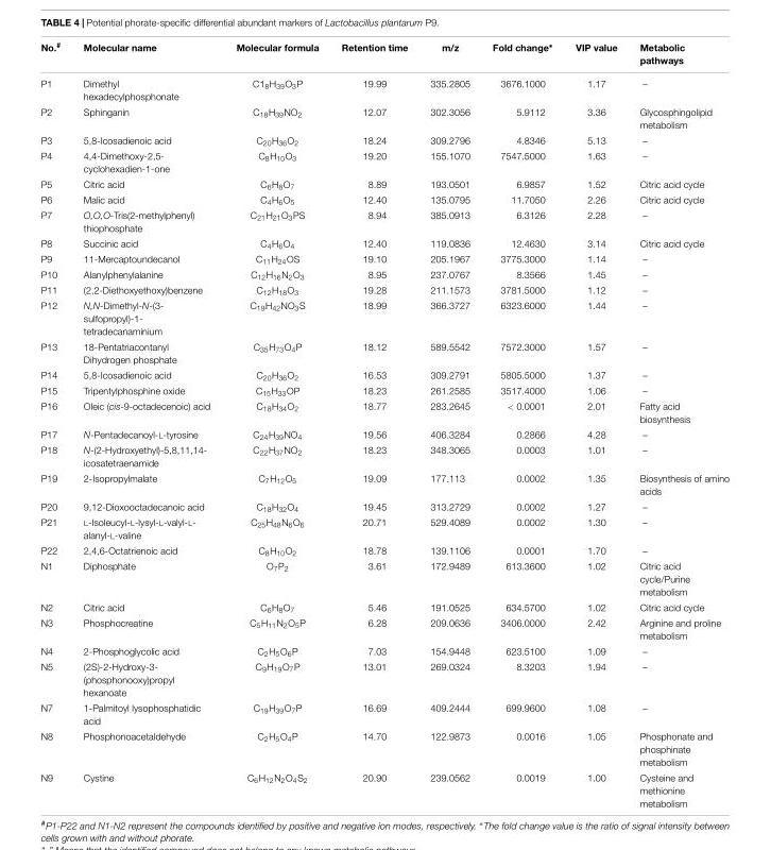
<table><thead><tr><td>No.<sup>#</sup></td><td>Molecular name</td><td>Molecular formula</td><td>Retention time</td><td>m/z</td><td>Fold change∗</td><td>VIP value</td><td>Metabolic pathways</td></tr></thead><tbody><tr><td>P1</td><td>Dimethyl hexadecylphosphonate</td><td>C1<sub>8</sub>H<sub>39</sub>O<sub>3</sub>P</td><td>19.99</td><td>335.2805</td><td>3676.1000</td><td>1.17</td><td>–</td></tr><tr><td>P2</td><td>Sphinganin</td><td>C<sub>18</sub>H<sub>39</sub>NO<sub>2</sub></td><td>12.07</td><td>302.3056</td><td>5.9112</td><td>3.36</td><td>Glycosphingolipid metabolism</td></tr><tr><td>P3</td><td>5,8-Icosadienoic acid</td><td>C<sub>20</sub>H<sub>36</sub>O<sub>2</sub></td><td>18.24</td><td>309.2796</td><td>4.8346</td><td>5.13</td><td>–</td></tr><tr><td>P4</td><td>4,4-Dimethoxy-2,5- cyclohexadien-1-one</td><td>C<sub>8</sub>H<sub>10</sub>O<sub>3</sub></td><td>19.20</td><td>155.1070</td><td>7547.5000</td><td>1.63</td><td>–</td></tr><tr><td>P5</td><td>Citric acid</td><td>C<sub>6</sub>H<sub>8</sub>O<sub>7</sub></td><td>8.89</td><td>193.0501</td><td>6.9857</td><td>1.52</td><td>Citric acid cycle</td></tr><tr><td>P6</td><td>Malic acid</td><td>C<sub>4</sub>H<sub>6</sub>O<sub>5</sub></td><td>12.40</td><td>135.0795</td><td>11.7050</td><td>2.26</td><td>Citric acid cycle</td></tr><tr><td>P7</td><td>O,O,O-Tris(2-methylphenyl) thiophosphate</td><td>C<sub>21</sub>H<sub>21</sub>O<sub>3</sub>PS</td><td>8.94</td><td>385.0913</td><td>6.3126</td><td>2.28</td><td>–</td></tr><tr><td>P8</td><td>Succinic acid</td><td>C<sub>4</sub>H<sub>6</sub>O<sub>4</sub></td><td>12.40</td><td>119.0836</td><td>12.4630</td><td>3.14</td><td>Citric acid cycle</td></tr><tr><td>P9</td><td>11-Mercaptoundecanol</td><td>C<sub>11</sub>H<sub>24</sub>OS</td><td>19.10</td><td>205.1967</td><td>3775.3000</td><td>1.14</td><td>–</td></tr><tr><td>P10</td><td>Alanylphenylalanine</td><td>C<sub>12</sub>H<sub>16</sub>N<sub>2</sub>O<sub>3</sub></td><td>8.95</td><td>237.0767</td><td>8.3566</td><td>1.45</td><td>–</td></tr><tr><td>P11</td><td>(2,2-Diethoxyethoxy)benzene</td><td>C<sub>12</sub>H<sub>18</sub>O<sub>3</sub></td><td>19.28</td><td>211.1573</td><td>3781.5000</td><td>1.12</td><td>–</td></tr><tr><td>P12</td><td>N,N-Dimethyl-N-(3- sulfopropyl)-1- tetradecanaminium</td><td>C<sub>19</sub>H<sub>42</sub>NO<sub>3</sub>S</td><td>18.99</td><td>366.3727</td><td>6323.6000</td><td>1.44</td><td>–</td></tr><tr><td>P13</td><td>18-Pentatriacontanyl Dihydrogen phosphate</td><td>C<sub>35</sub>H<sub>73</sub>O<sub>4</sub>P</td><td>18.12</td><td>589.5542</td><td>7572.3000</td><td>1.57</td><td>–</td></tr><tr><td>P14</td><td>5,8-Icosadienoic acid</td><td>C<sub>20</sub>H<sub>36</sub>O<sub>2</sub></td><td>16.53</td><td>309.2791</td><td>5805.5000</td><td>1.37</td><td>–</td></tr><tr><td>P15</td><td>Tripentylphosphine oxide</td><td>C<sub>15</sub>H<sub>33</sub>OP</td><td>18.23</td><td>261.2585</td><td>3517.4000</td><td>1.06</td><td>–</td></tr><tr><td>P16</td><td>Oleic (cis-9-octadecenoic) acid</td><td>C<sub>18</sub>H<sub>34</sub>O<sub>2</sub></td><td>18.77</td><td>283.2645</td><td>&lt; 0.0001</td><td>2.01</td><td>Fatty acid biosynthesis</td></tr><tr><td>P17</td><td>N-Pentadecanoyl-L-tyrosine</td><td>C<sub>24</sub>H<sub>39</sub>NO<sub>4</sub></td><td>19.56</td><td>406.3284</td><td>0.2866</td><td>4.28</td><td>–</td></tr><tr><td>P18</td><td>N-(2-Hydroxyethyl)-5,8,11,14- icosatetraenamide</td><td>C<sub>22</sub>H<sub>37</sub>NO<sub>2</sub></td><td>18.23</td><td>348.3065</td><td>0.0003</td><td>1.01</td><td>–</td></tr><tr><td>P19</td><td>2-Isopropylmalate</td><td>C<sub>7</sub>H<sub>12</sub>O<sub>5</sub></td><td>19.09</td><td>177.113</td><td>0.0002</td><td>1.35</td><td>Biosynthesis of amino acids</td></tr><tr><td>P20</td><td>9,12-Dioxooctadecanoic acid</td><td>C<sub>18</sub>H<sub>32</sub>O<sub>4</sub></td><td>19.45</td><td>313.2729</td><td>0.0002</td><td>1.27</td><td>–</td></tr><tr><td>P21</td><td>L-Isoleucyl-L-lysyl-L-valyl-L- alanyl-L-valine</td><td>C<sub>25</sub>H<sub>48</sub>N<sub>6</sub>O<sub>6</sub></td><td>20.71</td><td>529.4089</td><td>0.0002</td><td>1.30</td><td>–</td></tr><tr><td>P22</td><td>2,4,6-Octatrienoic acid</td><td>C<sub>8</sub>H<sub>10</sub>O<sub>2</sub></td><td>18.78</td><td>139.1106</td><td>0.0001</td><td>1.70</td><td>–</td></tr><tr><td>N1</td><td>Diphosphate</td><td>O<sub>7</sub>P<sub>2</sub></td><td>3.61</td><td>172.9489</td><td>613.3600</td><td>1.02</td><td>Citric acid cycle/Purine metabolism</td></tr><tr><td>N2</td><td>Citric acid</td><td>C<sub>6</sub>H<sub>8</sub>O<sub>7</sub></td><td>5.46</td><td>191.0525</td><td>634.5700</td><td>1.02</td><td>Citric acid cycle</td></tr><tr><td>N3</td><td>Phosphocreatine</td><td>C<sub>5</sub>H<sub>11</sub>N<sub>2</sub>O<sub>5</sub>P</td><td>6.28</td><td>209.0636</td><td>3406.0000</td><td>2.42</td><td>Arginine and proline metabolism</td></tr><tr><td>N4</td><td>2-Phosphoglycolic acid</td><td>C<sub>2</sub>H<sub>5</sub>O<sub>6</sub>P</td><td>7.03</td><td>154.9448</td><td>623.5100</td><td>1.09</td><td>–</td></tr><tr><td>N5</td><td>(2S)-2-Hydroxy-3- (phosphonooxy)propyl hexanoate</td><td>C<sub>9</sub>H<sub>19</sub>O<sub>7</sub>P</td><td>13.01</td><td>269.0324</td><td>8.3203</td><td>1.94</td><td>–</td></tr><tr><td>N7</td><td>1-Palmitoyl lysophosphatidic acid</td><td>C<sub>19</sub>H<sub>39</sub>O<sub>7</sub>P</td><td>16.69</td><td>409.2444</td><td>699.9600</td><td>1.08</td><td>–</td></tr><tr><td>N8</td><td>Phosphonoacetaldehyde</td><td>C<sub>2</sub>H<sub>5</sub>O<sub>4</sub>P</td><td>14.70</td><td>122.9873</td><td>0.0016</td><td>1.05</td><td>Phosphonate and phosphinate metabolism</td></tr><tr><td>N9</td><td>Cystine</td><td>C<sub>6</sub>H<sub>12</sub>N<sub>2</sub>O<sub>4</sub>S<sub>2</sub></td><td>20.90</td><td>239.0562</td><td>0.0019</td><td>1.00</td><td>Cysteine and methionine metabolism</td></tr></tbody></table>